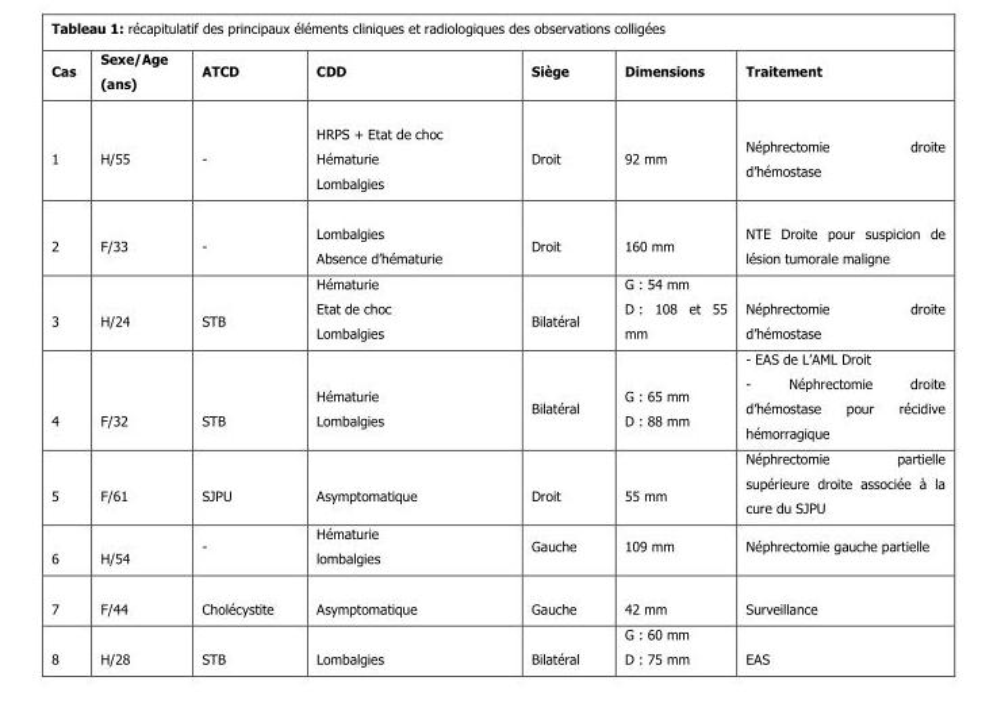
<table><thead><tr><td>Cas</td><td>Sexe/Age (ans)</td><td>ATCD</td><td>CDD</td><td>Siège</td><td>Dimensions</td><td>Traitement</td></tr></thead><tbody><tr><td>1</td><td>H/55</td><td>-</td><td>HRPS + Etat de choc Hématurie Lombalgies</td><td>Droit</td><td>92 mm</td><td>Néphrectomie droite d’hémostase</td></tr><tr><td>2</td><td>F/33</td><td>-</td><td>Lombalgies Absence d’hématurie</td><td>Droit</td><td>160 mm</td><td>NTE Droite pour suspicion de lésion tumorale maligne</td></tr><tr><td>3</td><td>H/24</td><td>STB</td><td>Hématurie Etat de choc Lombalgies</td><td>Bilatéral</td><td>G : 54 mm D : 108 et 55 mm</td><td>Néphrectomie droite d’hémostase</td></tr><tr><td>4</td><td>F/32</td><td>STB</td><td>Hématurie Lombalgies</td><td>Bilatéral</td><td>G : 65 mm D : 88 mm</td><td>- EAS de L’AML Droit - Néphrectomie droite d’hémostase pour récidive hémorragique</td></tr><tr><td>5</td><td>F/61</td><td>SJPU</td><td>Asymptomatique</td><td>Droit</td><td>55 mm</td><td>Néphrectomie partielle supérieure droite associée à la cure du SJPU</td></tr><tr><td>6</td><td>H/54</td><td>-</td><td>Hématurie lombalgies</td><td>Gauche</td><td>109 mm</td><td>Néphrectomie gauche partielle</td></tr><tr><td>7</td><td>F/44</td><td>Cholécystite</td><td>Asymptomatique</td><td>Gauche</td><td>42 mm</td><td>Surveillance</td></tr><tr><td>8</td><td>H/28</td><td>STB</td><td>Lombalgies</td><td>Bilatéral</td><td>G : 60 mm D : 75 mm</td><td>EAS</td></tr></tbody></table>